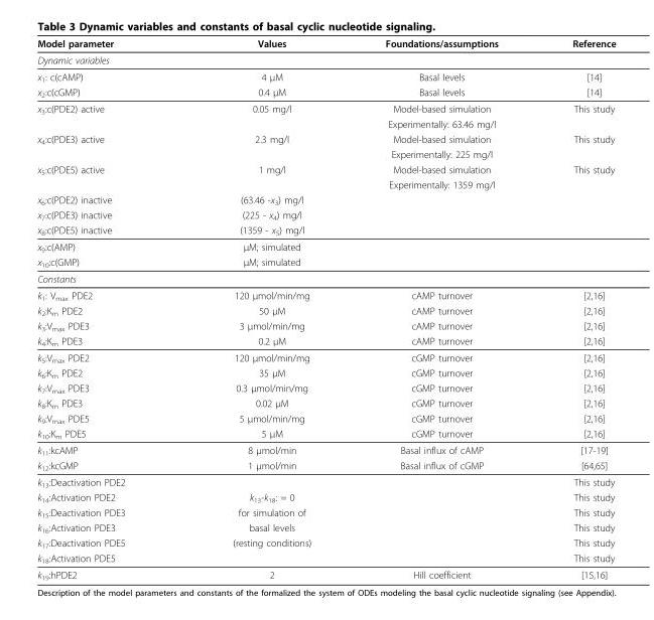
<table><thead><tr><td>Model parameter</td><td>Values</td><td>Foundations/assumptions</td><td>Reference</td></tr></thead><tbody><tr><td colspan="4">Dynamic variables</td></tr><tr><td>x<sub>1</sub>: c(cAMP)</td><td>4 μM</td><td>Basal levels</td><td>[14]</td></tr><tr><td>x<sub>2</sub>:c(cGMP)</td><td>0.4 μM</td><td>Basal levels</td><td>[14]</td></tr><tr><td rowspan="2">x<sub>3</sub>:c(PDE2) active</td><td>0.05 mg/l</td><td>Model-based simulation</td><td>This study</td></tr><tr><td></td><td>Experimentally: 63.46 mg/l</td><td></td></tr><tr><td rowspan="2">x<sub>4</sub>:c(PDE3) active</td><td>2.3 mg/l</td><td>Model-based simulation</td><td>This study</td></tr><tr><td></td><td>Experimentally: 225 mg/l</td><td></td></tr><tr><td rowspan="2">x<sub>5</sub>:c(PDE5) active</td><td>1 mg/l</td><td>Model-based simulation</td><td>This study</td></tr><tr><td></td><td>Experimentally: 1359 mg/l</td><td></td></tr><tr><td>x<sub>6</sub>:c(PDE2) inactive</td><td>(63.46 -x<sub>3</sub>) mg/l</td><td></td><td></td></tr><tr><td>x<sub>7</sub>:c(PDE3) inactive</td><td>(225 - x<sub>4</sub>) mg/l</td><td></td><td></td></tr><tr><td>x<sub>8</sub>:c(PDE5) inactive</td><td>(1359 - x<sub>5</sub>) mg/l</td><td></td><td></td></tr><tr><td>x<sub>9</sub>:c(AMP)</td><td>μM; simulated</td><td></td><td></td></tr><tr><td>x<sub>10</sub>:c(GMP)</td><td>μM; simulated</td><td></td><td></td></tr><tr><td colspan="4">Constants</td></tr><tr><td>k<sub>1</sub>: V<sub>max</sub> PDE2</td><td>120 μmol/min/mg</td><td>cAMP turnover</td><td>[2,16]</td></tr><tr><td>k<sub>2</sub>:K<sub>m</sub> PDE2</td><td>50 μM</td><td>cAMP turnover</td><td>[2,16]</td></tr><tr><td>k<sub>3</sub>:V<sub>max</sub> PDE3</td><td>3 μmol/min/mg</td><td>cAMP turnover</td><td>[2,16]</td></tr><tr><td>k<sub>4</sub>:K<sub>m</sub> PDE3</td><td>0.2 μM</td><td>cAMP turnover</td><td>[2,16]</td></tr><tr><td>k<sub>5</sub>:V<sub>max</sub> PDE2</td><td>120 μmol/min/mg</td><td>cGMP turnover</td><td>[2,16]</td></tr><tr><td>k<sub>6</sub>:K<sub>m</sub> PDE2</td><td>35 μM</td><td>cGMP turnover</td><td>[2,16]</td></tr><tr><td>k<sub>7</sub>:V<sub>max</sub> PDE3</td><td>0.3 μmol/min/mg</td><td>cGMP turnover</td><td>[2,16]</td></tr><tr><td>k<sub>8</sub>:K<sub>m</sub> PDE3</td><td>0.02 μM</td><td>cGMP turnover</td><td>[2,16]</td></tr><tr><td>k<sub>9</sub>:V<sub>max</sub> PDE5</td><td>5 μmol/min/mg</td><td>cGMP turnover</td><td>[2,16]</td></tr><tr><td>k<sub>10</sub>:K<sub>m</sub> PDE5</td><td>5 μM</td><td>cGMP turnover</td><td>[2,16]</td></tr><tr><td>k<sub>11</sub>:kcAMP</td><td>8 μmol/min</td><td>Basal influx of cAMP</td><td>[17-19]</td></tr><tr><td>k<sub>12</sub>:kcGMP</td><td>1 μmol/min</td><td>Basal influx of cGMP</td><td>[64,65]</td></tr><tr><td>k<sub>13</sub>:Deactivation PDE2</td><td></td><td></td><td>This study</td></tr><tr><td>k<sub>14</sub>:Activation PDE2</td><td>k<sub>13</sub>-k<sub>18</sub>: = 0</td><td></td><td>This study</td></tr><tr><td>k<sub>15</sub>:Deactivation PDE3</td><td>for simulation of</td><td></td><td>This study</td></tr><tr><td>k<sub>16</sub>:Activation PDE3</td><td>basal levels</td><td></td><td>This study</td></tr><tr><td>k<sub>17</sub>:Deactivation PDE5</td><td>(resting conditions)</td><td></td><td>This study</td></tr><tr><td>k<sub>18</sub>:Activation PDE5</td><td></td><td></td><td>This study</td></tr><tr><td>k<sub>19</sub>:hPDE2</td><td>2</td><td>Hill coefficient</td><td>[15,16]</td></tr></tbody></table>